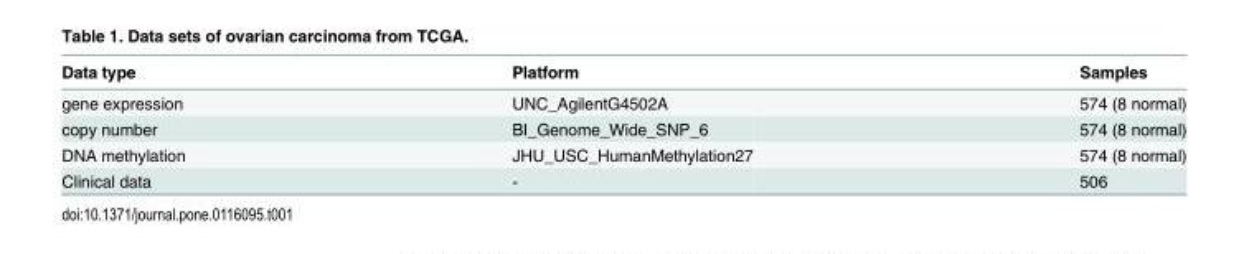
<table><thead><tr><td>Data type</td><td>Platform</td><td>Samples</td></tr></thead><tbody><tr><td>gene expression</td><td>UNC_AgilentG4502A</td><td>574 (8 normal)</td></tr><tr><td>copy number</td><td>BI_Genome_Wide_SNP_6</td><td>574 (8 normal)</td></tr><tr><td>DNA methylation</td><td>JHU_USC_HumanMethylation27</td><td>574 (8 normal)</td></tr><tr><td>Clinical data</td><td>-</td><td>506</td></tr></tbody></table>